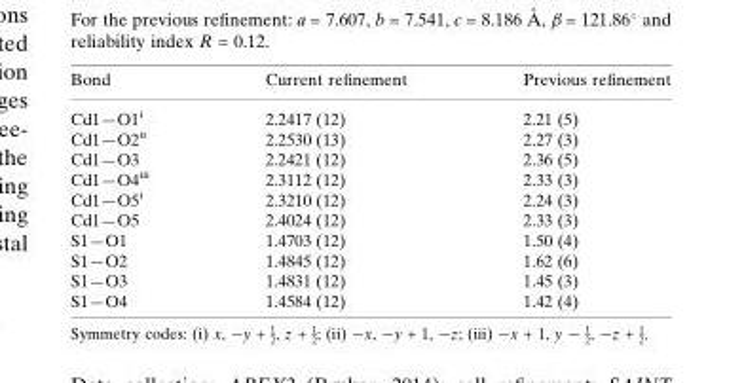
<table><thead><tr><td>Bond</td><td>Current refinement</td><td>Previous refinement</td></tr></thead><tbody><tr><td>Cd1—O1i</td><td>2.2417 (12)</td><td>2.21 (5)</td></tr><tr><td>Cd1—O2ii</td><td>2.2530 (13)</td><td>2.27 (3)</td></tr><tr><td>Cd1—O3</td><td>2.2421 (12)</td><td>2.36 (5)</td></tr><tr><td>Cd1—O4iii</td><td>2.3112 (12)</td><td>2.33 (3)</td></tr><tr><td>Cd1—O5i</td><td>2.3210 (12)</td><td>2.24 (3)</td></tr><tr><td>Cd1—O5</td><td>2.4024 (12)</td><td>2.33 (3)</td></tr><tr><td>S1—O1</td><td>1.4703 (12)</td><td>1.50 (4)</td></tr><tr><td>S1—O2</td><td>1.4845 (12)</td><td>1.62 (6)</td></tr><tr><td>S1—O3</td><td>1.4831 (12)</td><td>1.45 (3)</td></tr><tr><td>S1—O4</td><td>1.4584 (12)</td><td>1.42 (4)</td></tr></tbody></table>